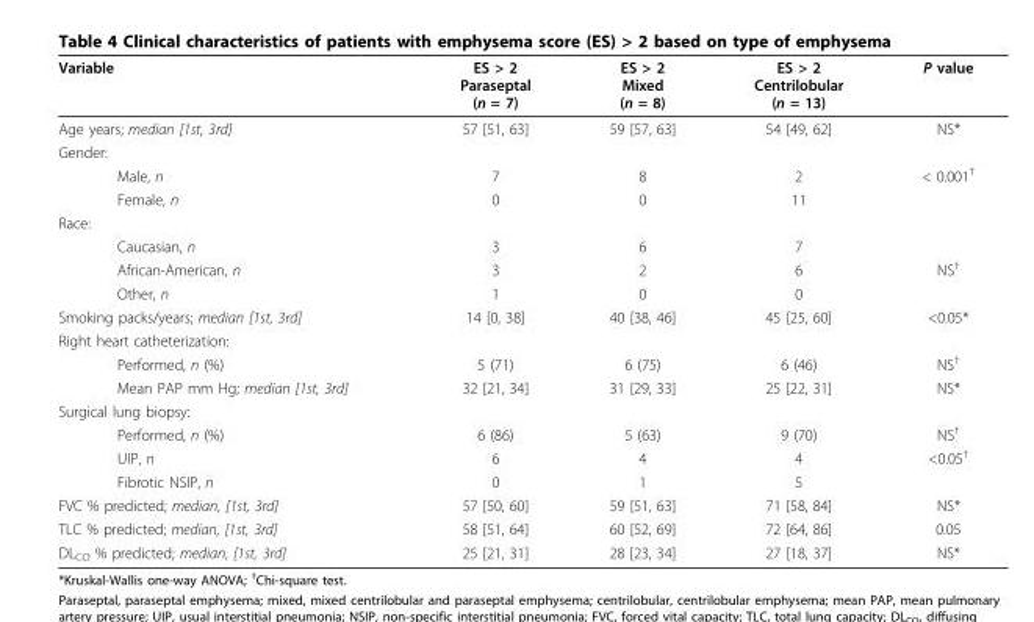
<table><thead><tr><td>Variable</td><td>ES &gt; 2 Paraseptal (n = 7)</td><td>ES &gt; 2 Mixed (n = 8)</td><td>ES &gt; 2 Centrilobular (n = 13)</td><td>P value</td></tr></thead><tbody><tr><td>Age years; median [1st, 3rd]</td><td>57 [51, 63]</td><td>59 [57, 63]</td><td>54 [49, 62]</td><td>NS*</td></tr><tr><td colspan="5">Gender:</td></tr><tr><td>Male, n</td><td>7</td><td>8</td><td>2</td><td>&lt; 0.001<sup>†</sup></td></tr><tr><td>Female, n</td><td>0</td><td>0</td><td>11</td><td></td></tr><tr><td colspan="5">Race:</td></tr><tr><td>Caucasian, n</td><td>3</td><td>6</td><td>7</td><td></td></tr><tr><td>African-American, n</td><td>3</td><td>2</td><td>6</td><td>NS<sup>†</sup></td></tr><tr><td>Other, n</td><td>1</td><td>0</td><td>0</td><td></td></tr><tr><td>Smoking packs/years; median [1st, 3rd]</td><td>14 [0, 38]</td><td>40 [38, 46]</td><td>45 [25, 60]</td><td>&lt;0.05*</td></tr><tr><td colspan="5">Right heart catheterization:</td></tr><tr><td>Performed, n (%)</td><td>5 (71)</td><td>6 (75)</td><td>6 (46)</td><td>NS<sup>†</sup></td></tr><tr><td>Mean PAP mm Hg; median [1st, 3rd]</td><td>32 [21, 34]</td><td>31 [29, 33]</td><td>25 [22, 31]</td><td>NS*</td></tr><tr><td colspan="5">Surgical lung biopsy:</td></tr><tr><td>Performed, n (%)</td><td>6 (86)</td><td>5 (63)</td><td>9 (70)</td><td>NS<sup>†</sup></td></tr><tr><td>UIP, n</td><td>6</td><td>4</td><td>4</td><td>&lt;0.05<sup>†</sup></td></tr><tr><td>Fibrotic NSIP, n</td><td>0</td><td>1</td><td>5</td><td></td></tr><tr><td>FVC % predicted; median, [1st, 3rd]</td><td>57 [50, 60]</td><td>59 [51, 63]</td><td>71 [58, 84]</td><td>NS*</td></tr><tr><td>TLC % predicted; median, [1st, 3rd]</td><td>58 [51, 64]</td><td>60 [52, 69]</td><td>72 [64, 86]</td><td>0.05</td></tr><tr><td>DL<sub>CO</sub> % predicted; median, [1st, 3rd]</td><td>25 [21, 31]</td><td>28 [23, 34]</td><td>27 [18, 37]</td><td>NS*</td></tr></tbody></table>